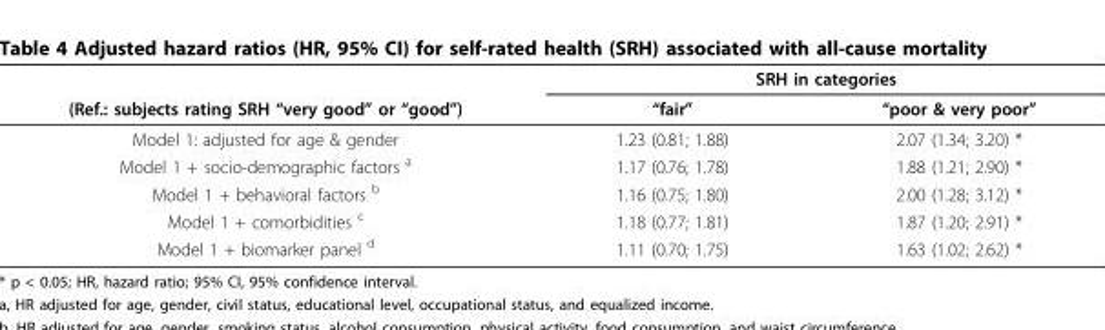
<table><thead><tr><td rowspan="2">(Ref.: subjects rating SRH “very good” or “good”)</td><td colspan="2">SRH in categories</td></tr><tr><td>“fair”</td><td>“poor &amp; very poor”</td></tr></thead><tbody><tr><td>Model 1: adjusted for age &amp; gender</td><td>1.23 (0.81; 1.88)</td><td>2.07 (1.34; 3.20) *</td></tr><tr><td>Model 1 + socio-demographic factors <sup>a</sup></td><td>1.17 (0.76; 1.78)</td><td>1.88 (1.21; 2.90) *</td></tr><tr><td>Model 1 + behavioral factors <sup>b</sup></td><td>1.16 (0.75; 1.80)</td><td>2.00 (1.28; 3.12) *</td></tr><tr><td>Model 1 + comorbidities <sup>c</sup></td><td>1.18 (0.77; 1.81)</td><td>1.87 (1.20; 2.91) *</td></tr><tr><td>Model 1 + biomarker panel <sup>d</sup></td><td>1.11 (0.70; 1.75)</td><td>1.63 (1.02; 2.62) *</td></tr></tbody></table>